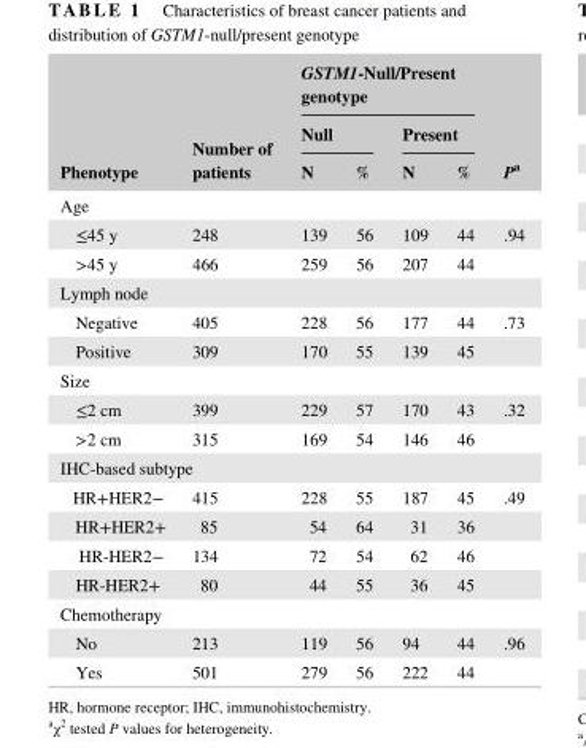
<table><thead><tr><td rowspan="3">Phenotype</td><td rowspan="3">Number of patients</td><td colspan="4">GSTM1- Null/Present genotype</td><td rowspan="3">Pa</td></tr><tr><td colspan="2">Null</td><td colspan="2">Present</td></tr><tr><td>N</td><td>%</td><td>N</td><td>%</td></tr></thead><tbody><tr><td colspan="7">Age</td></tr><tr><td>≤45 y</td><td>248</td><td>139</td><td>56</td><td>109</td><td>44</td><td>.94</td></tr><tr><td>&gt;45 y</td><td>466</td><td>259</td><td>56</td><td>207</td><td>44</td><td></td></tr><tr><td colspan="7">Lymph node</td></tr><tr><td>Negative</td><td>405</td><td>228</td><td>56</td><td>177</td><td>44</td><td>.73</td></tr><tr><td>Positive</td><td>309</td><td>170</td><td>55</td><td>139</td><td>45</td><td></td></tr><tr><td colspan="7">Size</td></tr><tr><td>≤2 cm</td><td>399</td><td>229</td><td>57</td><td>170</td><td>43</td><td>.32</td></tr><tr><td>&gt;2 cm</td><td>315</td><td>169</td><td>54</td><td>146</td><td>46</td><td></td></tr><tr><td colspan="7">IHC- based subtype</td></tr><tr><td>HR+HER2−</td><td>415</td><td>228</td><td>55</td><td>187</td><td>45</td><td>.49</td></tr><tr><td>HR+HER2+</td><td>85</td><td>54</td><td>64</td><td>31</td><td>36</td><td></td></tr><tr><td>HR- HER2−</td><td>134</td><td>72</td><td>54</td><td>62</td><td>46</td><td></td></tr><tr><td>HR- HER2+</td><td>80</td><td>44</td><td>55</td><td>36</td><td>45</td><td></td></tr><tr><td colspan="7">Chemotherapy</td></tr><tr><td>No</td><td>213</td><td>119</td><td>56</td><td>94</td><td>44</td><td>.96</td></tr><tr><td>Yes</td><td>501</td><td>279</td><td>56</td><td>222</td><td>44</td><td></td></tr></tbody></table>